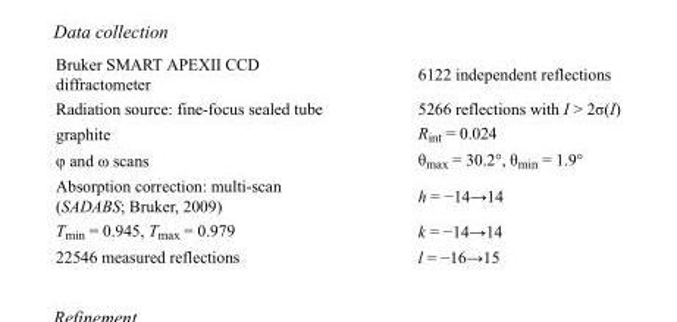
<table><tbody><tr><td>Bruker SMART APEXII CCD diffractometer</td><td>6122 independent reflections</td></tr><tr><td>Radiation source: fine-focus sealed tube</td><td>5266 reflections with I &gt; 2σ(I)</td></tr><tr><td>graphite</td><td>R<sub>int</sub> = 0.024</td></tr><tr><td>φ and ω scans</td><td>θ<sub>max</sub> = 30.2°, θ<sub>min</sub> = 1.9°</td></tr><tr><td>Absorption correction: multi-scan (SADABS; Bruker, 2009)</td><td>h = −14→14</td></tr><tr><td>T<sub>min</sub> = 0.945, T<sub>max</sub> = 0.979</td><td>k = −14→14</td></tr><tr><td>22546 measured reflections</td><td>l = −16→15</td></tr></tbody></table>